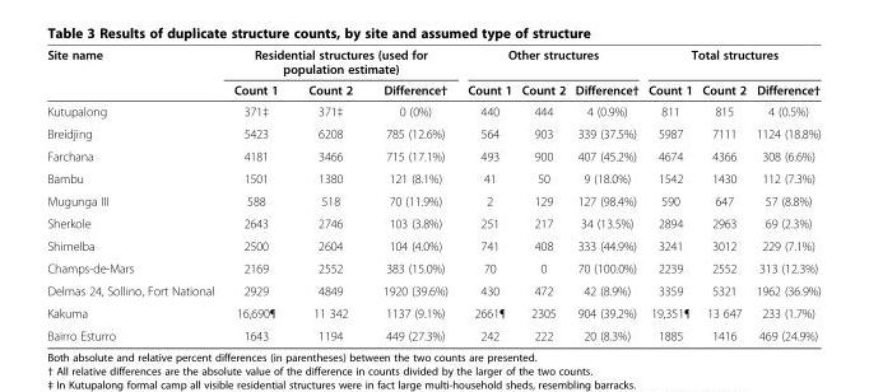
<table><thead><tr><td rowspan="2">Site name</td><td colspan="3">Residential structures (used for population estimate)</td><td colspan="3">Other structures</td><td colspan="3">Total structures</td></tr><tr><td>Count 1</td><td>Count 2</td><td>Difference†</td><td>Count 1</td><td>Count 2</td><td>Difference†</td><td>Count 1</td><td>Count 2</td><td>Difference†</td></tr></thead><tbody><tr><td>Kutupalong</td><td>371‡</td><td>371‡</td><td>0 (0%)</td><td>440</td><td>444</td><td>4 (0.9%)</td><td>811</td><td>815</td><td>4 (0.5%)</td></tr><tr><td>Breidjing</td><td>5423</td><td>6208</td><td>785 (12.6%)</td><td>564</td><td>903</td><td>339 (37.5%)</td><td>5987</td><td>7111</td><td>1124 (18.8%)</td></tr><tr><td>Farchana</td><td>4181</td><td>3466</td><td>715 (17.1%)</td><td>493</td><td>900</td><td>407 (45.2%)</td><td>4674</td><td>4366</td><td>308 (6.6%)</td></tr><tr><td>Bambu</td><td>1501</td><td>1380</td><td>121 (8.1%)</td><td>41</td><td>50</td><td>9 (18.0%)</td><td>1542</td><td>1430</td><td>112 (7.3%)</td></tr><tr><td>Mugunga III</td><td>588</td><td>518</td><td>70 (11.9%)</td><td>2</td><td>129</td><td>127 (98.4%)</td><td>590</td><td>647</td><td>57 (8.8%)</td></tr><tr><td>Sherkole</td><td>2643</td><td>2746</td><td>103 (3.8%)</td><td>251</td><td>217</td><td>34 (13.5%)</td><td>2894</td><td>2963</td><td>69 (2.3%)</td></tr><tr><td>Shimelba</td><td>2500</td><td>2604</td><td>104 (4.0%)</td><td>741</td><td>408</td><td>333 (44.9%)</td><td>3241</td><td>3012</td><td>229 (7.1%)</td></tr><tr><td>Champs-de-Mars</td><td>2169</td><td>2552</td><td>383 (15.0%)</td><td>70</td><td>0</td><td>70 (100.0%)</td><td>2239</td><td>2552</td><td>313 (12.3%)</td></tr><tr><td>Delmas 24, Sollino, Fort National</td><td>2929</td><td>4849</td><td>1920 (39.6%)</td><td>430</td><td>472</td><td>42 (8.9%)</td><td>3359</td><td>5321</td><td>1962 (36.9%)</td></tr><tr><td>Kakuma</td><td>16,690¶</td><td>11 342</td><td>1137 (9.1%)</td><td>2661¶</td><td>2305</td><td>904 (39.2%)</td><td>19,351¶</td><td>13 647</td><td>233 (1.7%)</td></tr><tr><td>Bairro Esturro</td><td>1643</td><td>1194</td><td>449 (27.3%)</td><td>242</td><td>222</td><td>20 (8.3%)</td><td>1885</td><td>1416</td><td>469 (24.9%)</td></tr></tbody></table>